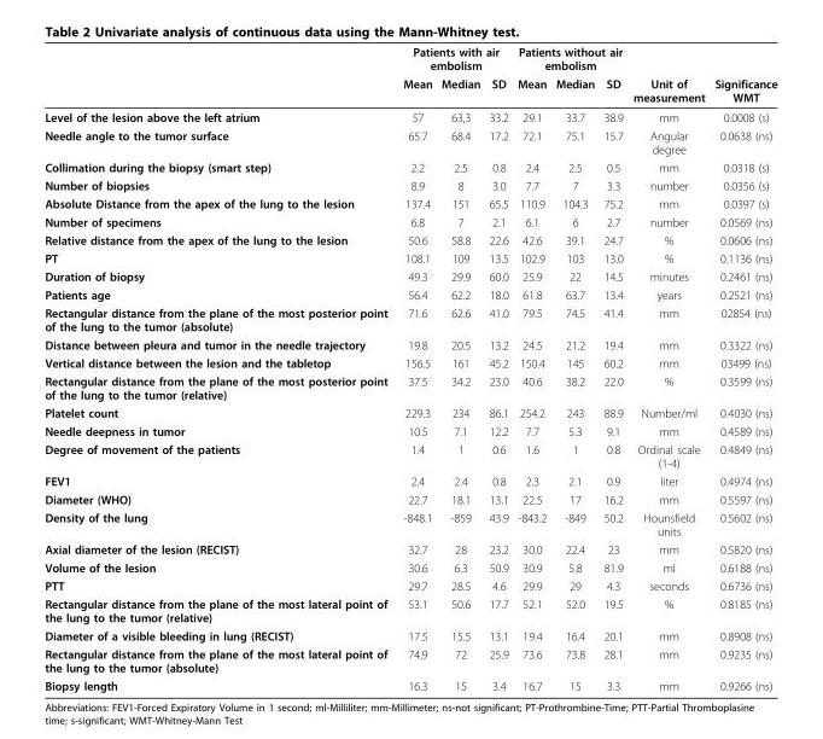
<table><thead><tr><td rowspan="2"></td><td colspan="3">Patients with air embolism</td><td colspan="3">Patients without air embolism</td><td rowspan="2">Unit of measurement</td><td rowspan="2">Significance WMT</td></tr><tr><td>Mean</td><td>Median</td><td>SD</td><td>Mean</td><td>Median</td><td>SD</td></tr></thead><tbody><tr><td>Level of the lesion above the left atrium</td><td>57</td><td>63,3</td><td>33.2</td><td>29.1</td><td>33.7</td><td>38.9</td><td>mm</td><td>0.0008 (s)</td></tr><tr><td>Needle angle to the tumor surface</td><td>65.7</td><td>68.4</td><td>17.2</td><td>72.1</td><td>75.1</td><td>15.7</td><td>Angular degree</td><td>0.0638 (ns)</td></tr><tr><td>Collimation during the biopsy (smart step)</td><td>2.2</td><td>2.5</td><td>0.8</td><td>2.4</td><td>2.5</td><td>0.5</td><td>mm</td><td>0.0318 (s)</td></tr><tr><td>Number of biopsies</td><td>8.9</td><td>8</td><td>3.0</td><td>7.7</td><td>7</td><td>3.3</td><td>number</td><td>0.0356 (s)</td></tr><tr><td>Absolute Distance from the apex of the lung to the lesion</td><td>137.4</td><td>151</td><td>65.5</td><td>110.9</td><td>104.3</td><td>75.2</td><td>mm</td><td>0.0397 (s)</td></tr><tr><td>Number of specimens</td><td>6.8</td><td>7</td><td>2.1</td><td>6.1</td><td>6</td><td>2.7</td><td>number</td><td>0.0569 (ns)</td></tr><tr><td>Relative distance from the apex of the lung to the lesion</td><td>50.6</td><td>58.8</td><td>22.6</td><td>42.6</td><td>39.1</td><td>24.7</td><td>%</td><td>0.0606 (ns)</td></tr><tr><td>PT</td><td>108.1</td><td>109</td><td>13.5</td><td>102.9</td><td>103</td><td>13.0</td><td>%</td><td>0.1136 (ns)</td></tr><tr><td>Duration of biopsy</td><td>49.3</td><td>29.9</td><td>60.0</td><td>25.9</td><td>22</td><td>14.5</td><td>minutes</td><td>0.2461 (ns)</td></tr><tr><td>Patients age</td><td>56.4</td><td>62.2</td><td>18.0</td><td>61.8</td><td>63.7</td><td>13.4</td><td>years</td><td>0.2521 (ns)</td></tr><tr><td>Rectangular distance from the plane of the most posterior point of the lung to the tumor (absolute)</td><td>71.6</td><td>62.6</td><td>41.0</td><td>79.5</td><td>74.5</td><td>41.4</td><td>mm</td><td>02854 (ns)</td></tr><tr><td>Distance between pleura and tumor in the needle trajectory</td><td>19.8</td><td>20.5</td><td>13.2</td><td>24.5</td><td>21.2</td><td>19.4</td><td>mm</td><td>0.3322 (ns)</td></tr><tr><td>Vertical distance between the lesion and the tabletop</td><td>156.5</td><td>161</td><td>45.2</td><td>150.4</td><td>145</td><td>60.2</td><td>mm</td><td>03499 (ns)</td></tr><tr><td>Rectangular distance from the plane of the most posterior point of the lung to the tumor (relative)</td><td>37.5</td><td>34.2</td><td>23.0</td><td>40.6</td><td>38.2</td><td>22.0</td><td>%</td><td>0.3599 (ns)</td></tr><tr><td>Platelet count</td><td>229.3</td><td>234</td><td>86.1</td><td>254.2</td><td>243</td><td>88.9</td><td>Number/ml</td><td>0.4030 (ns)</td></tr><tr><td>Needle deepness in tumor</td><td>10.5</td><td>7.1</td><td>12.2</td><td>7.7</td><td>5.3</td><td>9.1</td><td>mm</td><td>0.4589 (ns)</td></tr><tr><td>Degree of movement of the patients</td><td>1.4</td><td>1</td><td>0.6</td><td>1.6</td><td>1</td><td>0.8</td><td>Ordinal scale (1-4)</td><td>0.4849 (ns)</td></tr><tr><td>FEV1</td><td>2.4</td><td>2.4</td><td>0.8</td><td>2.3</td><td>2.1</td><td>0.9</td><td>liter</td><td>0.4974 (ns)</td></tr><tr><td>Diameter (WHO)</td><td>22.7</td><td>18.1</td><td>13.1</td><td>22.5</td><td>17</td><td>16.2</td><td>mm</td><td>0.5597 (ns)</td></tr><tr><td>Density of the lung</td><td>-848.1</td><td>-859</td><td>43.9</td><td>-843.2</td><td>-849</td><td>50.2</td><td>Hounsfield units</td><td>0.5602 (ns)</td></tr><tr><td>Axial diameter of the lesion (RECIST)</td><td>32.7</td><td>28</td><td>23.2</td><td>30.0</td><td>22.4</td><td>23</td><td>mm</td><td>0.5820 (ns)</td></tr><tr><td>Volume of the lesion</td><td>30.6</td><td>6.3</td><td>50.9</td><td>30.9</td><td>5.8</td><td>81.9</td><td>ml</td><td>0.6188 (ns)</td></tr><tr><td>PTT</td><td>29.7</td><td>28.5</td><td>4.6</td><td>29.9</td><td>29</td><td>4.3</td><td>seconds</td><td>0.6736 (ns)</td></tr><tr><td>Rectangular distance from the plane of the most lateral point of the lung to the tumor (relative)</td><td>53.1</td><td>50.6</td><td>17.7</td><td>52.1</td><td>52.0</td><td>19.5</td><td>%</td><td>0.8185 (ns)</td></tr><tr><td>Diameter of a visible bleeding in lung (RECIST)</td><td>17.5</td><td>15.5</td><td>13.1</td><td>19.4</td><td>16.4</td><td>20.1</td><td>mm</td><td>0.8908 (ns)</td></tr><tr><td>Rectangular distance from the plane of the most lateral point of the lung to the tumor (absolute)</td><td>74,9</td><td>72</td><td>25.9</td><td>73.6</td><td>73.8</td><td>28.1</td><td>mm</td><td>0.9235 (ns)</td></tr><tr><td>Biopsy length</td><td>16.3</td><td>15</td><td>3.4</td><td>16.7</td><td>15</td><td>3.3</td><td>mm</td><td>0.9266 (ns)</td></tr></tbody></table>